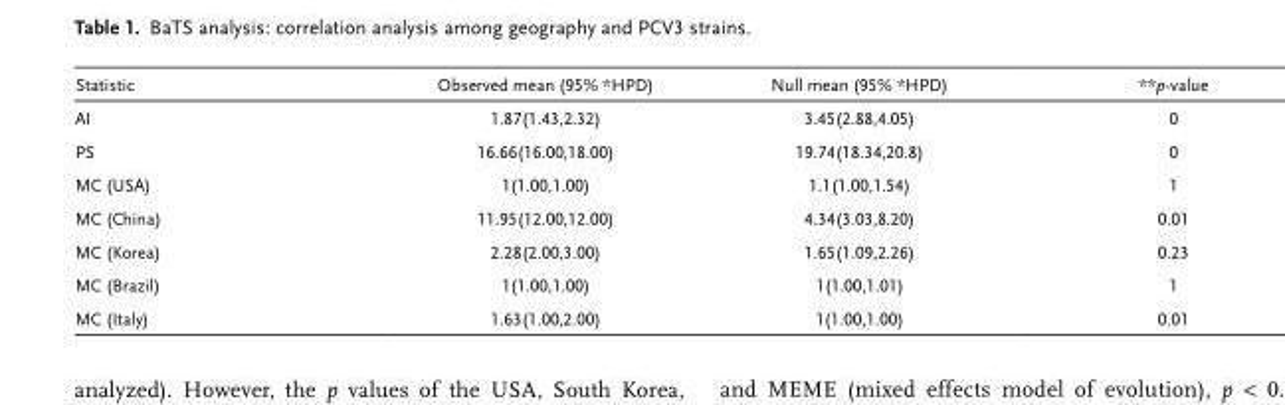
<table><thead><tr><td>Statistic</td><td>Observed mean (95% *HPD)</td><td>Null mean (95% *HPD)</td><td>**p-value</td></tr></thead><tbody><tr><td>AI</td><td>1.87(1.43,2.32)</td><td>3.45(2.88,4.05)</td><td>0</td></tr><tr><td>PS</td><td>16.66(16.00,18.00)</td><td>19.74(18.34,20.8)</td><td>0</td></tr><tr><td>MC (USA)</td><td>1(1.00,1.00)</td><td>1.1(1.00,1.54)</td><td>1</td></tr><tr><td>MC (China)</td><td>11.95(12.00,12.00)</td><td>4.34(3.03,8.20)</td><td>0.01</td></tr><tr><td>MC (Korea)</td><td>2.28(2.00,3.00)</td><td>1.65(1.09,2.26)</td><td>0.23</td></tr><tr><td>MC (Brazil)</td><td>1(1.00,1.00)</td><td>1(1.00,1.01)</td><td>1</td></tr><tr><td>MC (Italy)</td><td>1.63(1.00,2.00)</td><td>1(1.00,1.00)</td><td>0.01</td></tr></tbody></table>